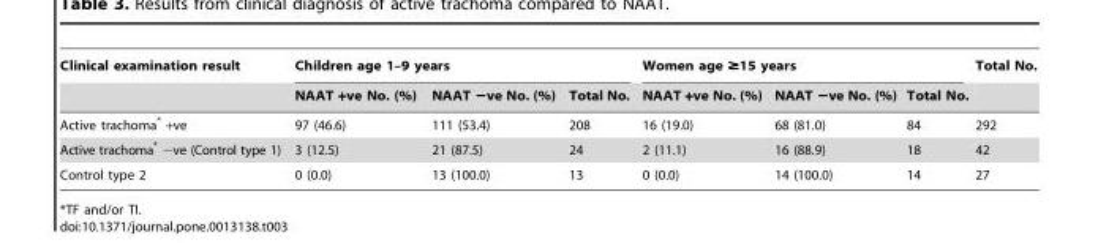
<table><thead><tr><td rowspan="2">Clinical examination result</td><td colspan="3">Children age 1–9 years</td><td colspan="3">Women age ≥15 years</td><td rowspan="2">Total No.</td></tr><tr><td>NAAT +ve No. (%)</td><td>NAAT −ve No. (%)</td><td>Total No.</td><td>NAAT +ve No. (%)</td><td>NAAT −ve No. (%)</td><td>Total No.</td></tr></thead><tbody><tr><td>Active trachoma* +ve</td><td>97 (46.6)</td><td>111 (53.4)</td><td>208</td><td>16 (19.0)</td><td>68 (81.0)</td><td>84</td><td>292</td></tr><tr><td>Active trachoma* −ve (Control type 1)</td><td>3 (12.5)</td><td>21 (87.5)</td><td>24</td><td>2 (11.1)</td><td>16 (88.9)</td><td>18</td><td>42</td></tr><tr><td>Control type 2</td><td>0 (0.0)</td><td>13 (100.0)</td><td>13</td><td>0 (0.0)</td><td>14 (100.0)</td><td>14</td><td>27</td></tr></tbody></table>